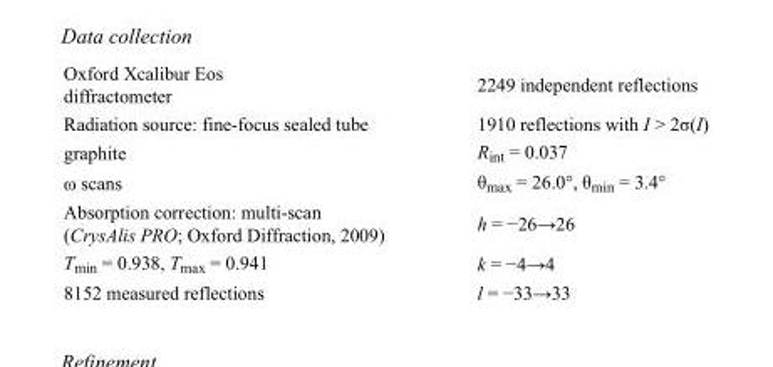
<table><tbody><tr><td>Oxford Xcalibur Eos diffractometer</td><td>2249 independent reflections</td></tr><tr><td>Radiation source: fine-focus sealed tube</td><td>1910 reflections with I &gt; 2σ(I)</td></tr><tr><td>graphite</td><td>R<sub>int</sub> = 0.037</td></tr><tr><td>ω scans</td><td>θ<sub>max</sub> = 26.0°, θ<sub>min</sub> = 3.4°</td></tr><tr><td>Absorption correction: multi-scan (CrysAlis PRO; Oxford Diffraction, 2009)</td><td>h = −26→26</td></tr><tr><td>T<sub>min</sub> = 0.938, T<sub>max</sub> = 0.941</td><td>k = −4→4</td></tr><tr><td>8152 measured reflections</td><td>l = −33→33</td></tr></tbody></table>